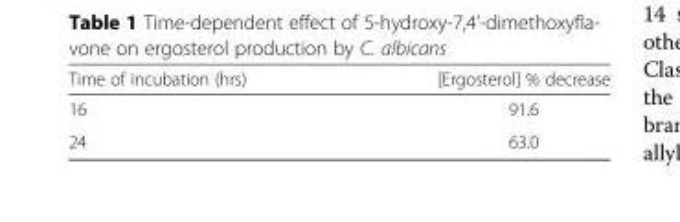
<table><thead><tr><td>Time of incubation (hrs)</td><td>[Ergosterol] % decrease</td></tr></thead><tbody><tr><td>16</td><td>91.6</td></tr><tr><td>24</td><td>63.0</td></tr></tbody></table>